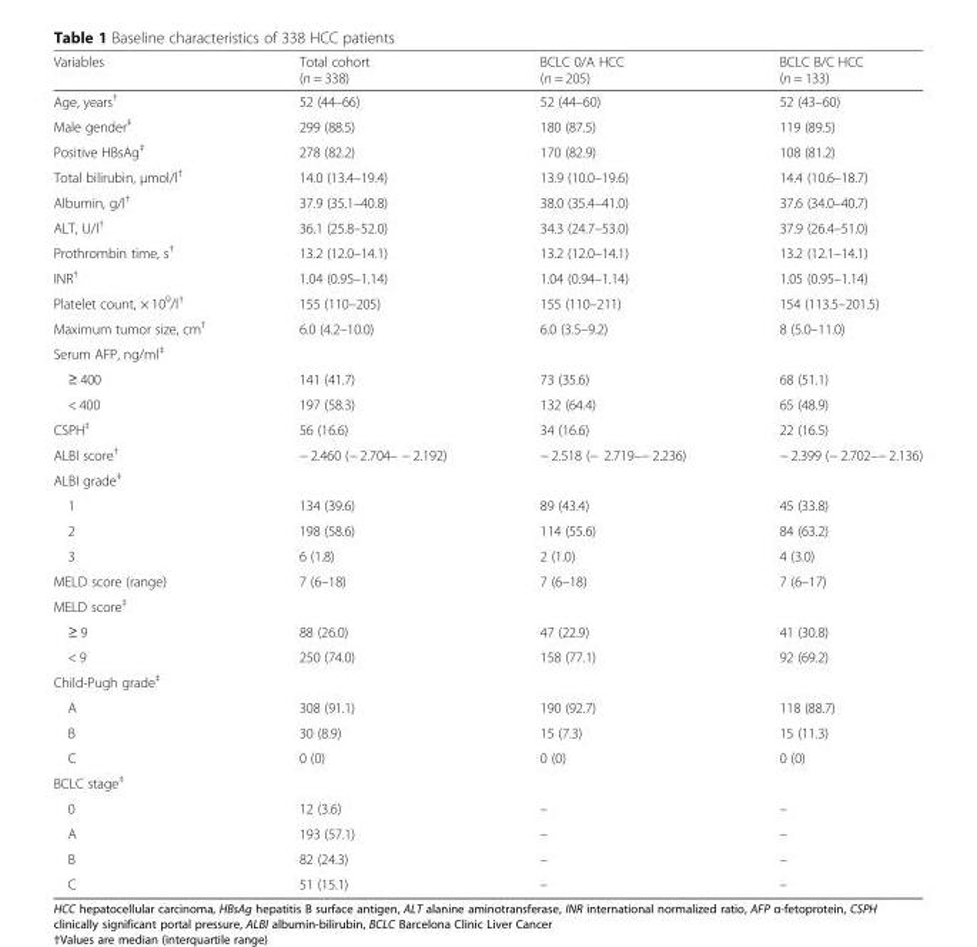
<table><thead><tr><td>Variables</td><td>Total cohort (n = 338)</td><td>BCLC 0/A HCC (n = 205)</td><td>BCLC B/C HCC (n = 133)</td></tr></thead><tbody><tr><td>Age, years<sup>†</sup></td><td>52 (44–66)</td><td>52 (44–60)</td><td>52 (43–60)</td></tr><tr><td>Male gender<sup>‡</sup></td><td>299 (88.5)</td><td>180 (87.5)</td><td>119 (89.5)</td></tr><tr><td>Positive HBsAg<sup>‡</sup></td><td>278 (82.2)</td><td>170 (82.9)</td><td>108 (81.2)</td></tr><tr><td>Total bilirubin, μmol/l<sup>†</sup></td><td>14.0 (13.4–19.4)</td><td>13.9 (10.0–19.6)</td><td>14.4 (10.6–18.7)</td></tr><tr><td>Albumin, g/l<sup>†</sup></td><td>37.9 (35.1–40.8)</td><td>38.0 (35.4–41.0)</td><td>37.6 (34.0–40.7)</td></tr><tr><td>ALT, U/l<sup>†</sup></td><td>36.1 (25.8–52.0)</td><td>34.3 (24.7–53.0)</td><td>37.9 (26.4–51.0)</td></tr><tr><td>Prothrombin time, s<sup>†</sup></td><td>13.2 (12.0–14.1)</td><td>13.2 (12.0–14.1)</td><td>13.2 (12.1–14.1)</td></tr><tr><td>INR<sup>†</sup></td><td>1.04 (0.95–1.14)</td><td>1.04 (0.94–1.14)</td><td>1.05 (0.95–1.14)</td></tr><tr><td>Platelet count, × 10<sup>9</sup>/l<sup>†</sup></td><td>155 (110–205)</td><td>155 (110–211)</td><td>154 (113.5–201.5)</td></tr><tr><td>Maximum tumor size, cm<sup>†</sup></td><td>6.0 (4.2–10.0)</td><td>6.0 (3.5–9.2)</td><td>8 (5.0–11.0)</td></tr><tr><td colspan="4">Serum AFP, ng/ml<sup>‡</sup></td></tr><tr><td>≥ 400</td><td>141 (41.7)</td><td>73 (35.6)</td><td>68 (51.1)</td></tr><tr><td>&lt; 400</td><td>197 (58.3)</td><td>132 (64.4)</td><td>65 (48.9)</td></tr><tr><td>CSPH<sup>‡</sup></td><td>56 (16.6)</td><td>34 (16.6)</td><td>22 (16.5)</td></tr><tr><td>ALBI score<sup>†</sup></td><td>− 2.460 (− 2.704– − 2.192)</td><td>− 2.518 (− 2.719–− 2.236)</td><td>− 2.399 (− 2.702–− 2.136)</td></tr><tr><td colspan="4">ALBI grade<sup>‡</sup></td></tr><tr><td>1</td><td>134 (39.6)</td><td>89 (43.4)</td><td>45 (33.8)</td></tr><tr><td>2</td><td>198 (58.6)</td><td>114 (55.6)</td><td>84 (63.2)</td></tr><tr><td>3</td><td>6 (1.8)</td><td>2 (1.0)</td><td>4 (3.0)</td></tr><tr><td>MELD score (range)</td><td>7 (6–18)</td><td>7 (6–18)</td><td>7 (6–17)</td></tr><tr><td colspan="4">MELD score<sup>‡</sup></td></tr><tr><td>≥ 9</td><td>88 (26.0)</td><td>47 (22.9)</td><td>41 (30.8)</td></tr><tr><td>&lt; 9</td><td>250 (74.0)</td><td>158 (77.1)</td><td>92 (69.2)</td></tr><tr><td colspan="4">Child-Pugh grade<sup>‡</sup></td></tr><tr><td>A</td><td>308 (91.1)</td><td>190 (92.7)</td><td>118 (88.7)</td></tr><tr><td>B</td><td>30 (8.9)</td><td>15 (7.3)</td><td>15 (11.3)</td></tr><tr><td>C</td><td>0 (0)</td><td>0 (0)</td><td>0 (0)</td></tr><tr><td colspan="4">BCLC stage<sup>‡</sup></td></tr><tr><td>0</td><td>12 (3.6)</td><td>–</td><td>–</td></tr><tr><td>A</td><td>193 (57.1)</td><td>–</td><td>–</td></tr><tr><td>B</td><td>82 (24.3)</td><td>–</td><td>–</td></tr><tr><td>C</td><td>51 (15.1)</td><td>–</td><td>–</td></tr></tbody></table>